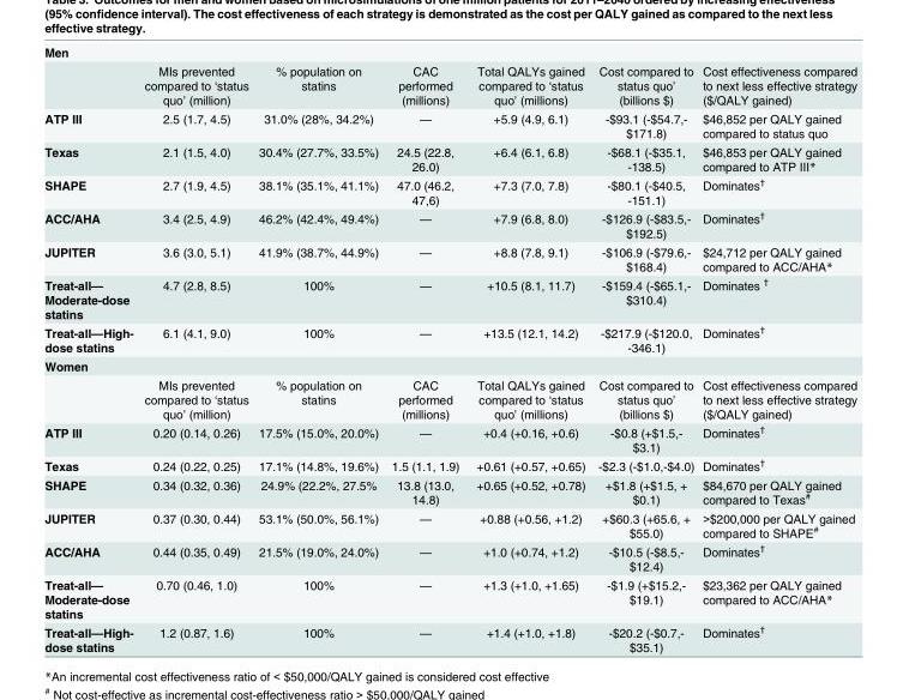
<table><tbody><tr><td colspan="7">Men</td></tr><tr><td></td><td>MIs prevented compared to ‘status quo’ (million)</td><td>% population on statins</td><td>CAC performed (millions)</td><td>Total QALYs gained compared to ‘status quo’ (millions)</td><td>Cost compared to status quo’ (billions $)</td><td>Cost effectiveness compared to next less effective strategy ($/QALY gained)</td></tr><tr><td>ATP III</td><td>2.5 (1.7, 4.5)</td><td>31.0% (28%, 34.2%)</td><td>—</td><td>+5.9 (4.9, 6.1)</td><td>-$93.1 (-$54.7,- $171.8)</td><td>$46,852 per QALY gained compared to status quo</td></tr><tr><td>Texas</td><td>2.1 (1.5, 4.0)</td><td>30.4% (27.7%, 33.5%)</td><td>24.5 (22.8, 26.0)</td><td>+6.4 (6.1, 6.8)</td><td>-$68.1 (-$35.1, -138.5)</td><td>$46,853 per QALY gained compared to ATP III*</td></tr><tr><td>SHAPE</td><td>2.7 (1.9, 4.5)</td><td>38.1% (35.1%, 41.1%)</td><td>47.0 (46.2, 47,6)</td><td>+7.3 (7.0, 7.8)</td><td>-$80.1 (-$40.5, -151.1)</td><td>Dominates<sup>†</sup></td></tr><tr><td>ACC/AHA</td><td>3.4 (2.5, 4.9)</td><td>46.2% (42.4%, 49.4%)</td><td>—</td><td>+7.9 (6.8, 8.0)</td><td>-$126.9 (-$83.5,- $192.5)</td><td>Dominates<sup>†</sup></td></tr><tr><td>JUPITER</td><td>3.6 (3.0, 5.1)</td><td>41.9% (38.7%, 44.9%)</td><td>—</td><td>+8.8 (7.8, 9.1)</td><td>-$106.9 (-$79.6,- $168.4)</td><td>$24,712 per QALY gained compared to ACC/AHA*</td></tr><tr><td>Treat-all— Moderate-dose statins</td><td>4.7 (2.8, 8.5)</td><td>100%</td><td>—</td><td>+10.5 (8.1, 11.7)</td><td>-$159.4 (-$65.1,- $310.4)</td><td>Dominates <sup>†</sup></td></tr><tr><td>Treat-all—High- dose statins</td><td>6.1 (4.1, 9.0)</td><td>100%</td><td>—</td><td>+13.5 (12.1, 14.2)</td><td>-$217.9 (-$120.0, -346.1)</td><td>Dominates<sup>†</sup></td></tr><tr><td colspan="7">Women</td></tr><tr><td></td><td>MIs prevented compared to ‘status quo’ (million)</td><td>% population on statins</td><td>CAC performed (millions)</td><td>Total QALYs gained compared to ‘status quo’ (millions)</td><td>Cost compared to status quo’ (billions $)</td><td>Cost effectiveness compared to next less effective strategy ($/QALY gained)</td></tr><tr><td>ATP III</td><td>0.20 (0.14, 0.26)</td><td>17.5% (15.0%, 20.0%)</td><td>—</td><td>+0.4 (+0.16, +0.6)</td><td>-$0.8 (+$1.5,- $3.1)</td><td>Dominates<sup>†</sup></td></tr><tr><td>Texas</td><td>0.24 (0.22, 0.25)</td><td>17.1% (14.8%, 19.6%)</td><td>1.5 (1.1, 1.9)</td><td>+0.61 (+0.57, +0.65)</td><td>-$2.3 (-$1.0,-$4.0)</td><td>Dominates<sup>†</sup></td></tr><tr><td>SHAPE</td><td>0.34 (0.32, 0.36)</td><td>24.9% (22.2%, 27.5%</td><td>13.8 (13.0, 14.8)</td><td>+0.65 (+0.52, +0.78)</td><td>+$1.8 (+$1.5, + $0.1)</td><td>$84,670 per QALY gained compared to Texas<sup>#</sup></td></tr><tr><td>JUPITER</td><td>0.37 (0.30, 0.44)</td><td>53.1% (50.0%, 56.1%)</td><td>—</td><td>+0.88 (+0.56, +1.2)</td><td>+$60.3 (+65.6, + $55.0)</td><td>&gt;$200,000 per QALY gained compared to SHAPE<sup>#</sup></td></tr><tr><td>ACC/AHA</td><td>0.44 (0.35, 0.49)</td><td>21.5% (19.0%, 24.0%)</td><td>—</td><td>+1.0 (+0.74, +1.2)</td><td>-$10.5 (-$8.5,- $12.4)</td><td>Dominates<sup>†</sup></td></tr><tr><td>Treat-all— Moderate-dose statins</td><td>0.70 (0.46, 1.0)</td><td>100%</td><td>—</td><td>+1.3 (+1.0, +1.65)</td><td>-$1.9 (+$15.2,- $19.1)</td><td>$23,362 per QALY gained compared to ACC/AHA*</td></tr><tr><td>Treat-all—High- dose statins</td><td>1.2 (0.87, 1.6)</td><td>100%</td><td>—</td><td>+1.4 (+1.0, +1.8)</td><td>-$20.2 (-$0.7,- $35.1)</td><td>Dominates<sup>†</sup></td></tr></tbody></table>